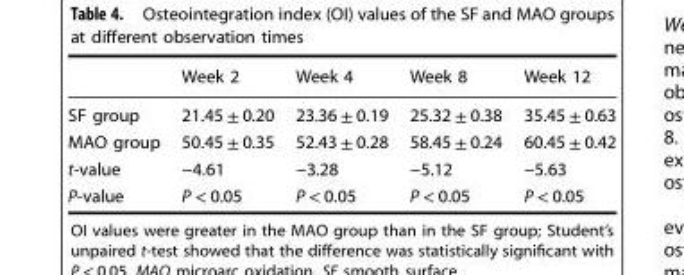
<table><thead><tr><td></td><td>Week 2</td><td>Week 4</td><td>Week 8</td><td>Week 12</td></tr></thead><tbody><tr><td>SF group</td><td>21.45 ± 0.20</td><td>23.36 ± 0.19</td><td>25.32 ± 0.38</td><td>35.45 ± 0.63</td></tr><tr><td>MAO group</td><td>50.45 ± 0.35</td><td>52.43 ± 0.28</td><td>58.45 ± 0.24</td><td>60.45 ± 0.42</td></tr><tr><td>t-value</td><td>−4.61</td><td>−3.28</td><td>−5.12</td><td>−5.63</td></tr><tr><td>P-value</td><td>P &lt; 0.05</td><td>P &lt; 0.05</td><td>P &lt; 0.05</td><td>P &lt; 0.05</td></tr></tbody></table>